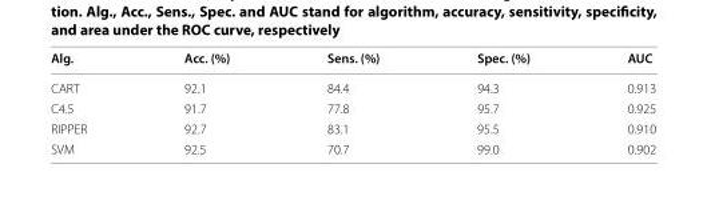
<table><thead><tr><td>Alg.</td><td>Acc. (%)</td><td>Sens. (%)</td><td>Spec. (%)</td><td>AUC</td></tr></thead><tbody><tr><td>CART</td><td>92.1</td><td>84.4</td><td>94.3</td><td>0.913</td></tr><tr><td>C4.5</td><td>91.7</td><td>77.8</td><td>95.7</td><td>0.925</td></tr><tr><td>RIPPER</td><td>92.7</td><td>83.1</td><td>95.5</td><td>0.910</td></tr><tr><td>SVM</td><td>92.5</td><td>70.7</td><td>99.0</td><td>0.902</td></tr></tbody></table>